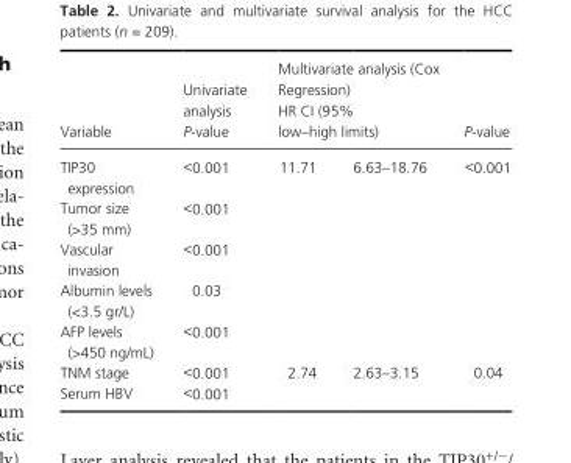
<table><thead><tr><td rowspan="2">Variable TIP30 expression</td><td rowspan="2">Univariate analysis P- value &lt;0.001</td><td colspan="2">Multivariate analysis (Cox Regression) HR CI (95% low–high limits)</td><td rowspan="2">P- value &lt;0.001</td></tr><tr><td>11.71</td><td>6.63–18.76</td></tr></thead><tbody><tr><td>Tumor size (&gt;35 mm)</td><td>&lt;0.001</td><td></td><td></td><td></td></tr><tr><td>Vascular invasion</td><td>&lt;0.001</td><td></td><td></td><td></td></tr><tr><td>Albumin levels (&lt;3.5 gr/L)</td><td>0.03</td><td></td><td></td><td></td></tr><tr><td>AFP levels (&gt;450 ng/mL)</td><td>&lt;0.001</td><td></td><td></td><td></td></tr><tr><td>TNM stage</td><td>&lt;0.001</td><td>2.74</td><td>2.63–3.15</td><td>0.04</td></tr><tr><td>Serum HBV</td><td>&lt;0.001</td><td></td><td></td><td></td></tr></tbody></table>